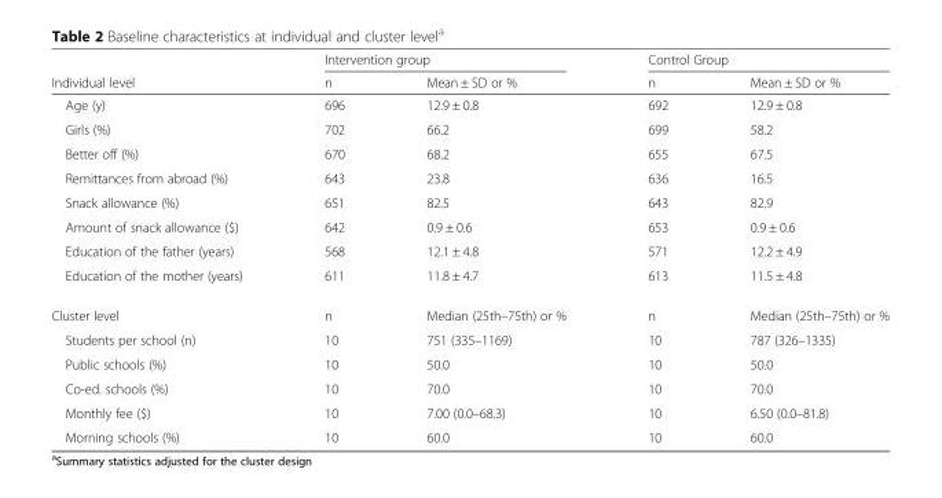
<table><thead><tr><td rowspan="2">Individual level</td><td colspan="2">Intervention group</td><td colspan="2">Control Group</td></tr><tr><td>n</td><td>Mean ± SD or %</td><td>n</td><td>Mean ± SD or %</td></tr></thead><tbody><tr><td>Age (y)</td><td>696</td><td>12.9 ± 0.8</td><td>692</td><td>12.9 ± 0.8</td></tr><tr><td>Girls (%)</td><td>702</td><td>66.2</td><td>699</td><td>58.2</td></tr><tr><td>Better off (%)</td><td>670</td><td>68.2</td><td>655</td><td>67.5</td></tr><tr><td>Remittances from abroad (%)</td><td>643</td><td>23.8</td><td>636</td><td>16.5</td></tr><tr><td>Snack allowance (%)</td><td>651</td><td>82.5</td><td>643</td><td>82.9</td></tr><tr><td>Amount of snack allowance ($)</td><td>642</td><td>0.9 ± 0.6</td><td>653</td><td>0.9 ± 0.6</td></tr><tr><td>Education of the father (years)</td><td>568</td><td>12.1 ± 4.8</td><td>571</td><td>12.2 ± 4.9</td></tr><tr><td>Education of the mother (years)</td><td>611</td><td>11.8 ± 4.7</td><td>613</td><td>11.5 ± 4.8</td></tr><tr><td>Cluster level</td><td>n</td><td>Median (25th–75th) or %</td><td>n</td><td>Median (25th–75th) or %</td></tr><tr><td>Students per school (n)</td><td>10</td><td>751 (335–1169)</td><td>10</td><td>787 (326–1335)</td></tr><tr><td>Public schools (%)</td><td>10</td><td>50.0</td><td>10</td><td>50.0</td></tr><tr><td>Co-ed. schools (%)</td><td>10</td><td>70.0</td><td>10</td><td>70.0</td></tr><tr><td>Monthly fee ($)</td><td>10</td><td>7.00 (0.0–68.3)</td><td>10</td><td>6.50 (0.0–81.8)</td></tr><tr><td>Morning schools (%)</td><td>10</td><td>60.0</td><td>10</td><td>60.0</td></tr></tbody></table>